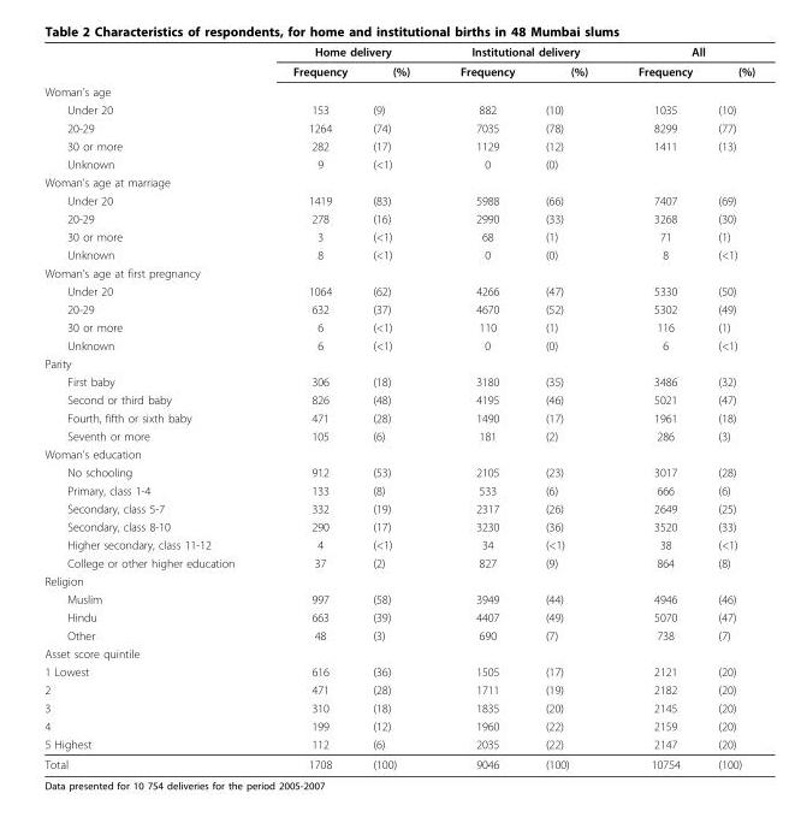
<table><thead><tr><td rowspan="39">Woman’s age Under 20 20-29 30 or more Unknown Woman’s age at marriage Under 20 20-29 30 or more Unknown Woman’s age at first pregnancy Under 20 20-29 30 or more Unknown Parity First baby Second or third baby Fourth, fifth or sixth baby Seventh or more Woman’s education No schooling Primary, class 1-4 Secondary, class 5-7 Secondary, class 8-10 Higher secondary, class 11-12 College or other higher education Religion Muslim Hindu Other Asset score quintile 1 Lowest 2 3 4 5 Highest</td><td colspan="2">Home delivery</td><td colspan="2">Institutional delivery</td><td colspan="2">All</td></tr><tr><td rowspan="38">Frequency 153 1264 282 9 1419 278 3 8 1064 632 6 6 306 826 471 105 912 133 332 290 4 37 997 663 48 616 471 310 199 112</td><td rowspan="38">(%) (9) (74) (17) (&lt;1) (83) (16) (&lt;1) (&lt;1) (62) (37) (&lt;1) (&lt;1) (18) (48) (28) (6) (53) (8) (19) (17) (&lt;1) (2) (58) (39) (3) (36) (28) (18) (12) (6)</td><td rowspan="38">Frequency 882 7035 1129 0 5988 2990 68 0 4266 4670 110 0 3180 4195 1490 181 2105 533 2317 3230 34 827 3949 4407 690 1505 1711 1835 1960 2035</td><td rowspan="38">(%) (10) (78) (12) (0) (66) (33) (1) (0) (47) (52) (1) (0) (35) (46) (17) (2) (23) (6) (26) (36) (&lt;1) (9) (44) (49) (7) (17) (19) (20) (22) (22)</td><td rowspan="38">Frequency 1035 8299 1411 7407 3268 71 8 5330 5302 116 6 3486 5021 1961 286 3017 666 2649 3520 38 864 4946 5070 738 2121 2182 2145 2159 2147</td><td rowspan="38">(%) (10) (77) (13) (69) (30) (1) (&lt;1) (50) (49) (1) (&lt;1) (32) (47) (18) (3) (28) (6) (25) (33) (&lt;1) (8) (46) (47) (7) (20) (20) (20) (20) (20)</td></tr><tr></tr><tr></tr><tr></tr><tr></tr><tr></tr><tr></tr><tr></tr><tr></tr><tr></tr><tr></tr><tr></tr><tr></tr><tr></tr><tr></tr><tr></tr><tr></tr><tr></tr><tr></tr><tr></tr><tr></tr><tr></tr><tr></tr><tr></tr><tr></tr><tr></tr><tr></tr><tr></tr><tr></tr><tr></tr><tr></tr><tr></tr><tr></tr><tr></tr><tr></tr><tr></tr><tr></tr><tr></tr></thead><tbody><tr><td>Total</td><td>1708</td><td>(100)</td><td>9046</td><td>(100)</td><td>10754</td><td>(100)</td></tr></tbody></table>